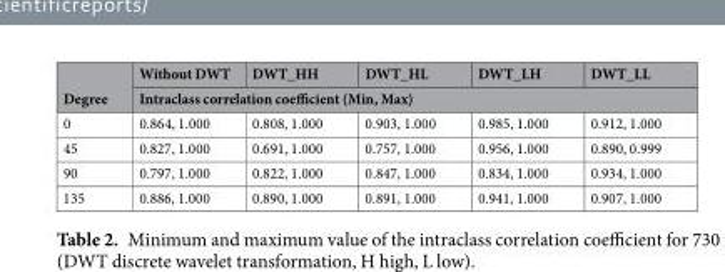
<table><thead><tr><td rowspan="2">Degree</td><td>Without DWT</td><td>DWT_HH</td><td>DWT_HL</td><td>DWT_LH</td><td>DWT_LL</td></tr><tr><td colspan="5">Intraclass correlation coefficient (Min, Max)</td></tr></thead><tbody><tr><td>0</td><td>0.864, 1.000</td><td>0.808, 1.000</td><td>0.903, 1.000</td><td>0.985, 1.000</td><td>0.912, 1.000</td></tr><tr><td>45</td><td>0.827, 1.000</td><td>0.691, 1.000</td><td>0.757, 1.000</td><td>0.956, 1.000</td><td>0.890, 0.999</td></tr><tr><td>90</td><td>0.797, 1.000</td><td>0.822, 1.000</td><td>0.847, 1.000</td><td>0.834, 1.000</td><td>0.934, 1.000</td></tr><tr><td>135</td><td>0.886, 1.000</td><td>0.890, 1.000</td><td>0.891, 1.000</td><td>0.941, 1.000</td><td>0.907, 1.000</td></tr></tbody></table>